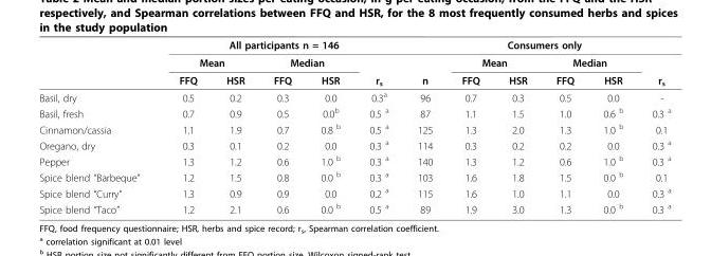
<table><thead><tr><td rowspan="3"></td><td colspan="5">All participants n = 146</td><td colspan="6">Consumers only</td></tr><tr><td colspan="2">Mean</td><td colspan="2">Median</td><td rowspan="2">r<sub>s</sub></td><td rowspan="2">n</td><td colspan="2">Mean</td><td colspan="2">Median</td><td rowspan="2">r<sub>s</sub></td></tr><tr><td>FFQ</td><td>HSR</td><td>FFQ</td><td>HSR</td><td>FFQ</td><td>HSR</td><td>FFQ</td><td>HSR</td></tr></thead><tbody><tr><td>Basil, dry</td><td>0.5</td><td>0.2</td><td>0.3</td><td>0.0</td><td>0.3<sup>a</sup></td><td>96</td><td>0.7</td><td>0.3</td><td>0.5</td><td>0.0</td><td>-</td></tr><tr><td>Basil, fresh</td><td>0.7</td><td>0.9</td><td>0.5</td><td>0.0<sup>b</sup></td><td>0.5 <sup>a</sup></td><td>87</td><td>1.1</td><td>1.5</td><td>1.0</td><td>0.6 <sup>b</sup></td><td>0.3 <sup>a</sup></td></tr><tr><td>Cinnamon/cassia</td><td>1.1</td><td>1.9</td><td>0.7</td><td>0.8 <sup>b</sup></td><td>0.5 <sup>a</sup></td><td>125</td><td>1.3</td><td>2.0</td><td>1.3</td><td>1.0 <sup>b</sup></td><td>0.1</td></tr><tr><td>Oregano, dry</td><td>0.3</td><td>0.1</td><td>0.2</td><td>0.0</td><td>0.3 <sup>a</sup></td><td>114</td><td>0.3</td><td>0.2</td><td>0.2</td><td>0.0</td><td>0.3 <sup>a</sup></td></tr><tr><td>Pepper</td><td>1.3</td><td>1.2</td><td>0.6</td><td>1.0 <sup>b</sup></td><td>0.3 <sup>a</sup></td><td>140</td><td>1.3</td><td>1.2</td><td>0.6</td><td>1.0 <sup>b</sup></td><td>0.3 <sup>a</sup></td></tr><tr><td>Spice blend “Barbeque”</td><td>1.2</td><td>1.5</td><td>0.8</td><td>0.0 <sup>b</sup></td><td>0.3 <sup>a</sup></td><td>103</td><td>1.6</td><td>1.8</td><td>1.5</td><td>0.0 <sup>b</sup></td><td>0.1</td></tr><tr><td>Spice blend “Curry”</td><td>1.3</td><td>0.9</td><td>0.9</td><td>0.0</td><td>0.2 <sup>a</sup></td><td>115</td><td>1.6</td><td>1.0</td><td>1.1</td><td>0.0</td><td>0.3 <sup>a</sup></td></tr><tr><td>Spice blend “Taco”</td><td>1.2</td><td>2.1</td><td>0.6</td><td>0.0 <sup>b</sup></td><td>0.5 <sup>a</sup></td><td>89</td><td>1.9</td><td>3.0</td><td>1.3</td><td>0.0 <sup>b</sup></td><td>0.3 <sup>a</sup></td></tr></tbody></table>